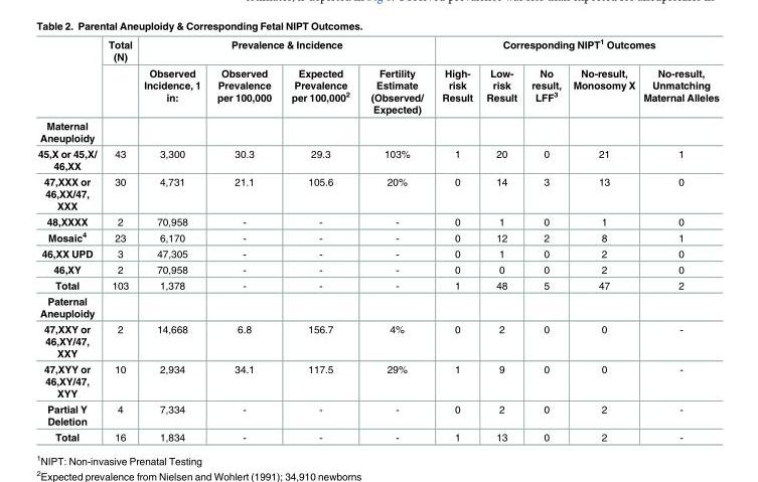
<table><thead><tr><td rowspan="2"></td><td rowspan="2">Total (N)</td><td colspan="4">Prevalence &amp; Incidence</td><td colspan="5">Corresponding NIPT<sup>1</sup> Outcomes</td></tr><tr><td>Observed Incidence, 1 in:</td><td>Observed Prevalence per 100,000</td><td>Expected Prevalence per 100,000<sup>2</sup></td><td>Fertility Estimate (Observed/ Expected)</td><td>High- risk Result</td><td>Low- risk Result</td><td>No result, LFF<sup>3</sup></td><td>No-result, Monosomy X</td><td>No-result, Unmatching Maternal Alleles</td></tr></thead><tbody><tr><td colspan="11">Maternal Aneuploidy</td></tr><tr><td>45,X or 45,X/ 46,XX</td><td>43</td><td>3,300</td><td>30.3</td><td>29.3</td><td>103%</td><td>1</td><td>20</td><td>0</td><td>21</td><td>1</td></tr><tr><td>47,XXX or 46,XX/47, XXX</td><td>30</td><td>4,731</td><td>21.1</td><td>105.6</td><td>20%</td><td>0</td><td>14</td><td>3</td><td>13</td><td>0</td></tr><tr><td>48,XXXX</td><td>2</td><td>70,958</td><td>-</td><td>-</td><td>-</td><td>0</td><td>1</td><td>0</td><td>1</td><td>0</td></tr><tr><td>Mosaic<sup>4</sup></td><td>23</td><td>6,170</td><td>-</td><td>-</td><td>-</td><td>0</td><td>12</td><td>2</td><td>8</td><td>1</td></tr><tr><td>46,XX UPD</td><td>3</td><td>47,305</td><td>-</td><td>-</td><td>-</td><td>0</td><td>1</td><td>0</td><td>2</td><td>0</td></tr><tr><td>46,XY</td><td>2</td><td>70,958</td><td>-</td><td>-</td><td>-</td><td>0</td><td>0</td><td>0</td><td>2</td><td>0</td></tr><tr><td>Total</td><td>103</td><td>1,378</td><td>-</td><td>-</td><td>-</td><td>1</td><td>48</td><td>5</td><td>47</td><td>2</td></tr><tr><td colspan="11">Paternal Aneuploidy</td></tr><tr><td>47,XXY or 46,XY/47, XXY</td><td>2</td><td>14,668</td><td>6.8</td><td>156.7</td><td>4%</td><td>0</td><td>2</td><td>0</td><td>0</td><td>-</td></tr><tr><td>47,XYY or 46,XY/47, XYY</td><td>10</td><td>2,934</td><td>34.1</td><td>117.5</td><td>29%</td><td>1</td><td>9</td><td>0</td><td>0</td><td>-</td></tr><tr><td>Partial Y Deletion</td><td>4</td><td>7,334</td><td>-</td><td>-</td><td>-</td><td>0</td><td>2</td><td>0</td><td>2</td><td>-</td></tr><tr><td>Total</td><td>16</td><td>1,834</td><td>-</td><td>-</td><td>-</td><td>1</td><td>13</td><td>0</td><td>2</td><td>-</td></tr></tbody></table>